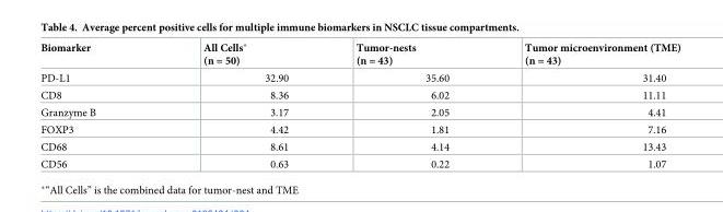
<table><thead><tr><td>Biomarker</td><td>All Cells* (n = 50)</td><td>Tumor-nests (n = 43)</td><td>Tumor microenvironment (TME) (n = 43)</td></tr></thead><tbody><tr><td>PD-L1</td><td>32.90</td><td>35.60</td><td>31.40</td></tr><tr><td>CD8</td><td>8.36</td><td>6.02</td><td>11.11</td></tr><tr><td>Granzyme B</td><td>3.17</td><td>2.05</td><td>4.41</td></tr><tr><td>FOXP3</td><td>4.42</td><td>1.81</td><td>7.16</td></tr><tr><td>CD68</td><td>8.61</td><td>4.14</td><td>13.43</td></tr><tr><td>CD56</td><td>0.63</td><td>0.22</td><td>1.07</td></tr></tbody></table>